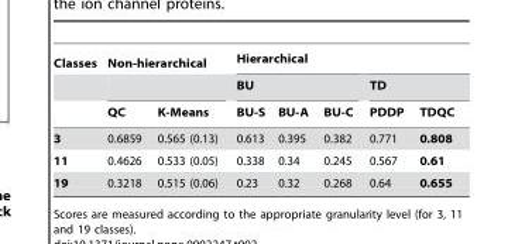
<table><thead><tr><td rowspan="3">Classes</td><td colspan="2">Non-hierarchical</td><td colspan="5">Hierarchical</td></tr><tr><td rowspan="2">QC</td><td rowspan="2">K-Means</td><td colspan="3">BU</td><td colspan="2">TD</td></tr><tr><td>BU-S</td><td>BU-A</td><td>BU-C</td><td>PDDP</td><td>TDQC</td></tr></thead><tbody><tr><td>3</td><td>0.6859</td><td>0.565 (0.13)</td><td>0.613</td><td>0.395</td><td>0.382</td><td>0.771</td><td>0.808</td></tr><tr><td>11</td><td>0.4626</td><td>0.533 (0.05)</td><td>0.338</td><td>0.34</td><td>0.245</td><td>0.567</td><td>0.61</td></tr><tr><td>19</td><td>0.3218</td><td>0.515 (0.06)</td><td>0.23</td><td>0.32</td><td>0.268</td><td>0.64</td><td>0.655</td></tr></tbody></table>